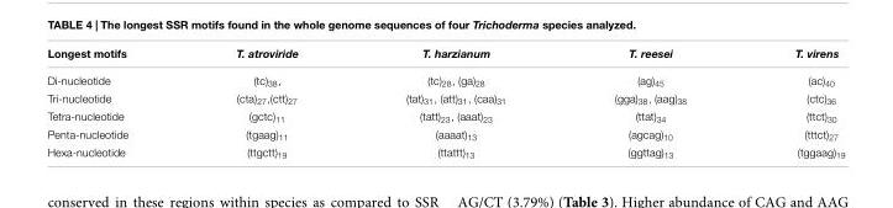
<table><thead><tr><td>Longest motifs</td><td>T. atroviride</td><td>T. harzianum</td><td>T. reesei</td><td>T. virens</td></tr></thead><tbody><tr><td>Di-nucleotide</td><td>(tc)<sub>38</sub>,</td><td>(tc)<sub>28</sub>, (ga)<sub>28</sub></td><td>(ag)<sub>45</sub></td><td>(ac)<sub>40</sub></td></tr><tr><td>Tri-nucleotide</td><td>(cta)<sub>27</sub>,(ctt)<sub>27</sub></td><td>(tat)<sub>31</sub>, (att)<sub>31</sub>, (caa)<sub>31</sub></td><td>(gga)<sub>38</sub>, (aag)<sub>38</sub></td><td>(ctc)<sub>36</sub></td></tr><tr><td>Tetra-nucleotide</td><td>(gctc)<sub>11</sub></td><td>(tatt)<sub>23</sub>, (aaat)<sub>23</sub></td><td>(ttat)<sub>34</sub></td><td>(ttct)<sub>30</sub></td></tr><tr><td>Penta-nucleotide</td><td>(tgaag)<sub>11</sub></td><td>(aaaat)<sub>13</sub></td><td>(agcag)<sub>10</sub></td><td>(tttct)<sub>27</sub></td></tr><tr><td>Hexa-nucleotide</td><td>(ttgctt)<sub>19</sub></td><td>(ttattt)<sub>13</sub></td><td>(ggttag)<sub>13</sub></td><td>(tggaag)<sub>19</sub></td></tr></tbody></table>